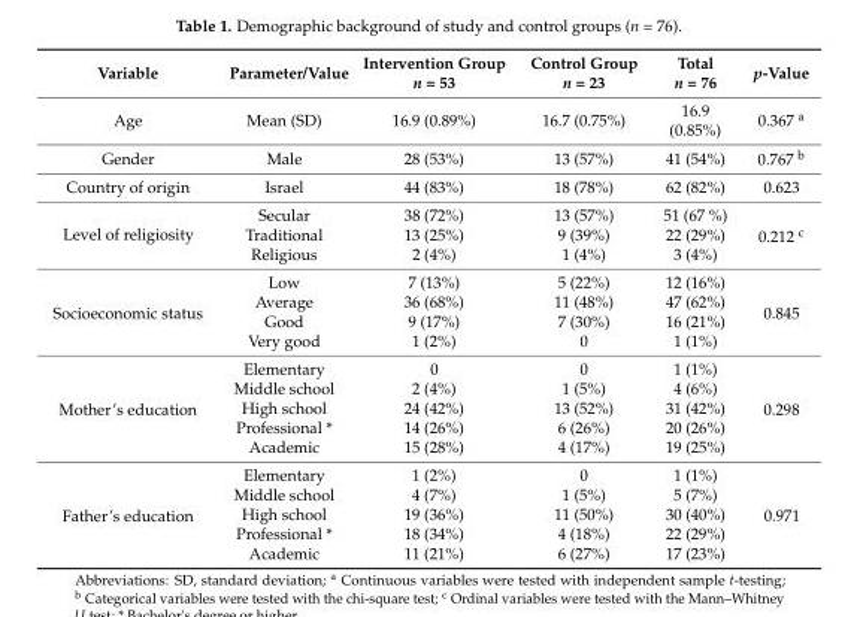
<table><thead><tr><td>Variable</td><td>Parameter/Value</td><td>Intervention Group n = 53</td><td>Control Group n = 23</td><td>Total n = 76</td><td>p-Value</td></tr></thead><tbody><tr><td>Age</td><td>Mean (SD)</td><td>16.9 (0.89%)</td><td>16.7 (0.75%)</td><td>16.9 (0.85%)</td><td>0.367 <sup>a</sup></td></tr><tr><td>Gender</td><td>Male</td><td>28 (53%)</td><td>13 (57%)</td><td>41 (54%)</td><td>0.767 <sup>b</sup></td></tr><tr><td>Country of origin</td><td>Israel</td><td>44 (83%)</td><td>18 (78%)</td><td>62 (82%)</td><td>0.623</td></tr><tr><td rowspan="3">Level of religiosity</td><td>Secular</td><td>38 (72%)</td><td>13 (57%)</td><td>51 (67 %)</td><td rowspan="3">0.212 <sup>c</sup></td></tr><tr><td>Traditional</td><td>13 (25%)</td><td>9 (39%)</td><td>22 (29%)</td></tr><tr><td>Religious</td><td>2 (4%)</td><td>1 (4%)</td><td>3 (4%)</td></tr><tr><td rowspan="4">Socioeconomic status</td><td>Low</td><td>7 (13%)</td><td>5 (22%)</td><td>12 (16%)</td><td rowspan="4">0.845</td></tr><tr><td>Average</td><td>36 (68%)</td><td>11 (48%)</td><td>47 (62%)</td></tr><tr><td>Good</td><td>9 (17%)</td><td>7 (30%)</td><td>16 (21%)</td></tr><tr><td>Very good</td><td>1 (2%)</td><td>0</td><td>1 (1%)</td></tr><tr><td rowspan="5">Mother’s education</td><td>Elementary</td><td>0</td><td>0</td><td>1 (1%)</td><td rowspan="5">0.298</td></tr><tr><td>Middle school</td><td>2 (4%)</td><td>1 (5%)</td><td>4 (6%)</td></tr><tr><td>High school</td><td>24 (42%)</td><td>13 (52%)</td><td>31 (42%)</td></tr><tr><td>Professional *</td><td>14 (26%)</td><td>6 (26%)</td><td>20 (26%)</td></tr><tr><td>Academic</td><td>15 (28%)</td><td>4 (17%)</td><td>19 (25%)</td></tr><tr><td rowspan="5">Father’s education</td><td>Elementary</td><td>1 (2%)</td><td>0</td><td>1 (1%)</td><td rowspan="5">0.971</td></tr><tr><td>Middle school</td><td>4 (7%)</td><td>1 (5%)</td><td>5 (7%)</td></tr><tr><td>High school</td><td>19 (36%)</td><td>11 (50%)</td><td>30 (40%)</td></tr><tr><td>Professional *</td><td>18 (34%)</td><td>4 (18%)</td><td>22 (29%)</td></tr><tr><td>Academic</td><td>11 (21%)</td><td>6 (27%)</td><td>17 (23%)</td></tr></tbody></table>